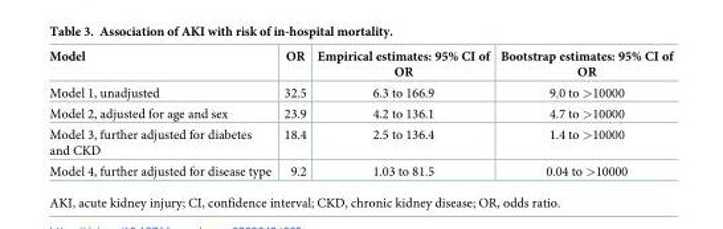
<table><thead><tr><td>Model</td><td>OR</td><td>Empirical estimates: 95% CI of OR</td><td>Bootstrap estimates: 95% CI of OR</td></tr></thead><tbody><tr><td>Model 1, unadjusted</td><td>32.5</td><td>6.3 to 166.9</td><td>9.0 to &gt;10000</td></tr><tr><td>Model 2, adjusted for age and sex</td><td>23.9</td><td>4.2 to 136.1</td><td>4.7 to &gt;10000</td></tr><tr><td>Model 3, further adjusted for diabetes and CKD</td><td>18.4</td><td>2.5 to 136.4</td><td>1.4 to &gt;10000</td></tr><tr><td>Model 4, further adjusted for disease type</td><td>9.2</td><td>1.03 to 81.5</td><td>0.04 to &gt;10000</td></tr></tbody></table>